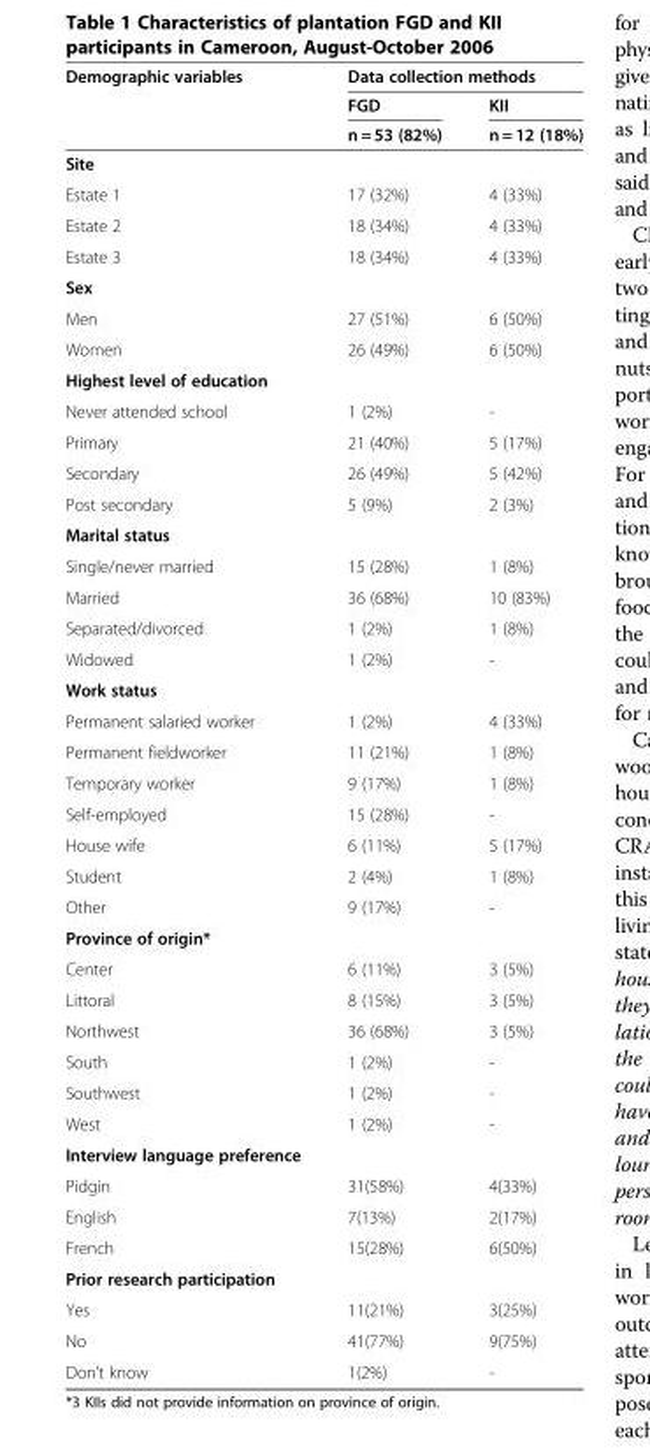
<table><thead><tr><td rowspan="3">Demographic variables</td><td colspan="2">Data collection methods</td></tr><tr><td rowspan="2">FGD n = 53 (82%)</td><td rowspan="2">KII n = 12 (18%)</td></tr><tr></tr></thead><tbody><tr><td colspan="3">Site</td></tr><tr><td>Estate 1</td><td>17 (32%)</td><td>4 (33%)</td></tr><tr><td>Estate 2</td><td>18 (34%)</td><td>4 (33%)</td></tr><tr><td>Estate 3</td><td>18 (34%)</td><td>4 (33%)</td></tr><tr><td colspan="3">Sex</td></tr><tr><td>Men</td><td>27 (51%)</td><td>6 (50%)</td></tr><tr><td>Women</td><td>26 (49%)</td><td>6 (50%)</td></tr><tr><td colspan="3">Highest level of education</td></tr><tr><td>Never attended school</td><td>1 (2%)</td><td>-</td></tr><tr><td>Primary</td><td>21 (40%)</td><td>5 (17%)</td></tr><tr><td>Secondary</td><td>26 (49%)</td><td>5 (42%)</td></tr><tr><td>Post secondary</td><td>5 (9%)</td><td>2 (3%)</td></tr><tr><td colspan="3">Marital status</td></tr><tr><td>Single/never married</td><td>15 (28%)</td><td>1 (8%)</td></tr><tr><td>Married</td><td>36 (68%)</td><td>10 (83%)</td></tr><tr><td>Separated/divorced</td><td>1 (2%)</td><td>1 (8%)</td></tr><tr><td>Widowed</td><td>1 (2%)</td><td>-</td></tr><tr><td colspan="3">Work status</td></tr><tr><td>Permanent salaried worker</td><td>1 (2%)</td><td>4 (33%)</td></tr><tr><td>Permanent fieldworker</td><td>11 (21%)</td><td>1 (8%)</td></tr><tr><td>Temporary worker</td><td>9 (17%)</td><td>1 (8%)</td></tr><tr><td>Self-employed</td><td>15 (28%)</td><td>-</td></tr><tr><td>House wife</td><td>6 (11%)</td><td>5 (17%)</td></tr><tr><td>Student</td><td>2 (4%)</td><td>1 (8%)</td></tr><tr><td>Other</td><td>9 (17%)</td><td>-</td></tr><tr><td colspan="3">Province of origin*</td></tr><tr><td>Center</td><td>6 (11%)</td><td>3 (5%)</td></tr><tr><td>Littoral</td><td>8 (15%)</td><td>3 (5%)</td></tr><tr><td>Northwest</td><td>36 (68%)</td><td>3 (5%)</td></tr><tr><td>South</td><td>1 (2%)</td><td>-</td></tr><tr><td>Southwest</td><td>1 (2%)</td><td>-</td></tr><tr><td>West</td><td>1 (2%)</td><td>-</td></tr><tr><td colspan="3">Interview language preference</td></tr><tr><td>Pidgin</td><td>31(58%)</td><td>4(33%)</td></tr><tr><td>English</td><td>7(13%)</td><td>2(17%)</td></tr><tr><td>French</td><td>15(28%)</td><td>6(50%)</td></tr><tr><td colspan="3">Prior research participation</td></tr><tr><td>Yes</td><td>11(21%)</td><td>3(25%)</td></tr><tr><td>No</td><td>41(77%)</td><td>9(75%)</td></tr><tr><td>Don’t know</td><td>1(2%)</td><td>-</td></tr></tbody></table>